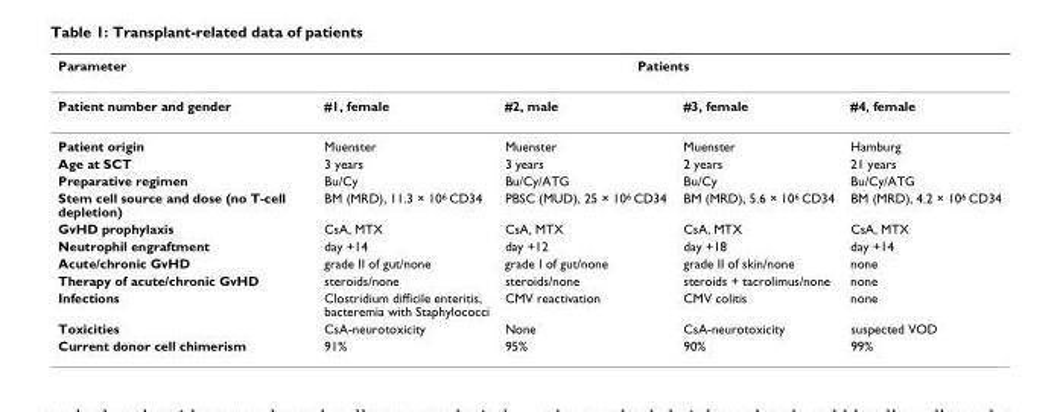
<table><thead><tr><td rowspan="2">Parameter Patient number and gender</td><td colspan="4">Patients</td></tr><tr><td>#1, female</td><td>#2, male</td><td>#3, female</td><td>#4, female</td></tr></thead><tbody><tr><td>Patient origin</td><td>Muenster</td><td>Muenster</td><td>Muenster</td><td>Hamburg</td></tr><tr><td>Age at SCT</td><td>3 years</td><td>3 years</td><td>2 years</td><td>21 years</td></tr><tr><td>Preparative regimen</td><td>Bu/Cy</td><td>Bu/Cy/ATG</td><td>Bu/Cy</td><td>Bu/Cy/ATG</td></tr><tr><td>Stem cell source and dose (no T-cell depletion)</td><td>BM (MRD), 11.3 × 10<sup>6</sup> CD34</td><td>PBSC (MUD), 25 × 10<sup>6</sup> CD34</td><td>BM (MRD), 5.6 × 10<sup>6</sup> CD34</td><td>BM (MRD), 4.2 × 10<sup>6</sup> CD34</td></tr><tr><td>GvHD prophylaxis</td><td>CsA, MTX</td><td>CsA, MTX</td><td>CsA, MTX</td><td>CsA, MTX</td></tr><tr><td>Neutrophil engraftment</td><td>day +14</td><td>day +12</td><td>day +18</td><td>day +14</td></tr><tr><td>Acute/chronic GvHD</td><td>grade II of gut/none</td><td>grade I of gut/none</td><td>grade II of skin/none</td><td>none</td></tr><tr><td>Therapy of acute/chronic GvHD</td><td>steroids/none</td><td>steroids/none</td><td>steroids + tacrolimus/none</td><td>none</td></tr><tr><td>Infections</td><td>Clostridium difficile enteritis, bacteremia with Staphylococci</td><td>CMV reactivation</td><td>CMV colitis</td><td>none</td></tr><tr><td>Toxicities</td><td>CsA-neurotoxicity</td><td>None</td><td>CsA-neurotoxicity</td><td>suspected VOD</td></tr><tr><td>Current donor cell chimerism</td><td>91%</td><td>95%</td><td>90%</td><td>99%</td></tr></tbody></table>